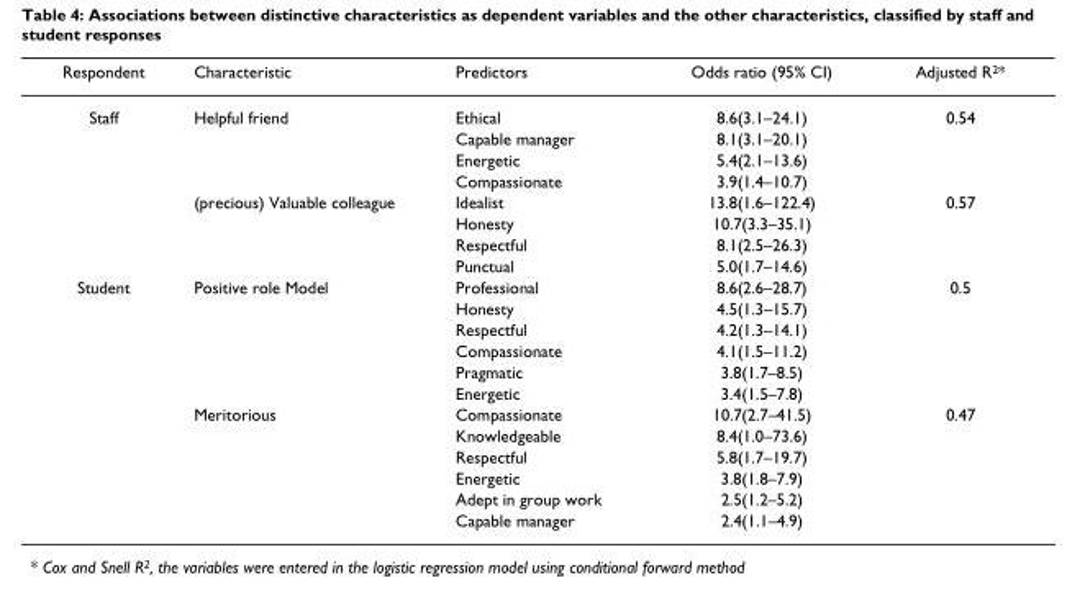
<table><thead><tr><td>Respondent</td><td>Characteristic</td><td>Predictors</td><td>Odds ratio (95% CI)</td><td>Adjusted R2*</td></tr></thead><tbody><tr><td rowspan="8">Staff</td><td>Helpful friend</td><td>Ethical</td><td>8.6(3.1–24.1)</td><td>0.54</td></tr><tr><td></td><td>Capable manager</td><td>8.1(3.1–20.1)</td><td></td></tr><tr><td></td><td>Energetic</td><td>5.4(2.1–13.6)</td><td></td></tr><tr><td></td><td>Compassionate</td><td>3.9(1.4–10.7)</td><td></td></tr><tr><td>(precious) Valuable colleague</td><td>Idealist</td><td>13.8(1.6–122.4)</td><td>0.57</td></tr><tr><td></td><td>Honesty</td><td>10.7(3.3–35.1)</td><td></td></tr><tr><td></td><td>Respectful</td><td>8.1(2.5–26.3)</td><td></td></tr><tr><td></td><td>Punctual</td><td>5.0(1.7–14.6)</td><td></td></tr><tr><td rowspan="12">Student</td><td>Positive role Model</td><td>Professional</td><td>8.6(2.6–28.7)</td><td>0.5</td></tr><tr><td></td><td>Honesty</td><td>4.5(1.3–15.7)</td><td></td></tr><tr><td></td><td>Respectful</td><td>4.2(1.3–14.1)</td><td></td></tr><tr><td></td><td>Compassionate</td><td>4.1(1.5–11.2)</td><td></td></tr><tr><td></td><td>Pragmatic</td><td>3.8(1.7–8.5)</td><td></td></tr><tr><td></td><td>Energetic</td><td>3.4(1.5–7.8)</td><td></td></tr><tr><td>Meritorious</td><td>Compassionate</td><td>10.7(2.7–41.5)</td><td>0.47</td></tr><tr><td></td><td>Knowledgeable</td><td>8.4(1.0–73.6)</td><td></td></tr><tr><td></td><td>Respectful</td><td>5.8(1.7–19.7)</td><td></td></tr><tr><td></td><td>Energetic</td><td>3.8(1.8–7.9)</td><td></td></tr><tr><td></td><td>Adept in group work</td><td>2.5(1.2–5.2)</td><td></td></tr><tr><td></td><td>Capable manager</td><td>2.4(1.1–4.9)</td><td></td></tr></tbody></table>